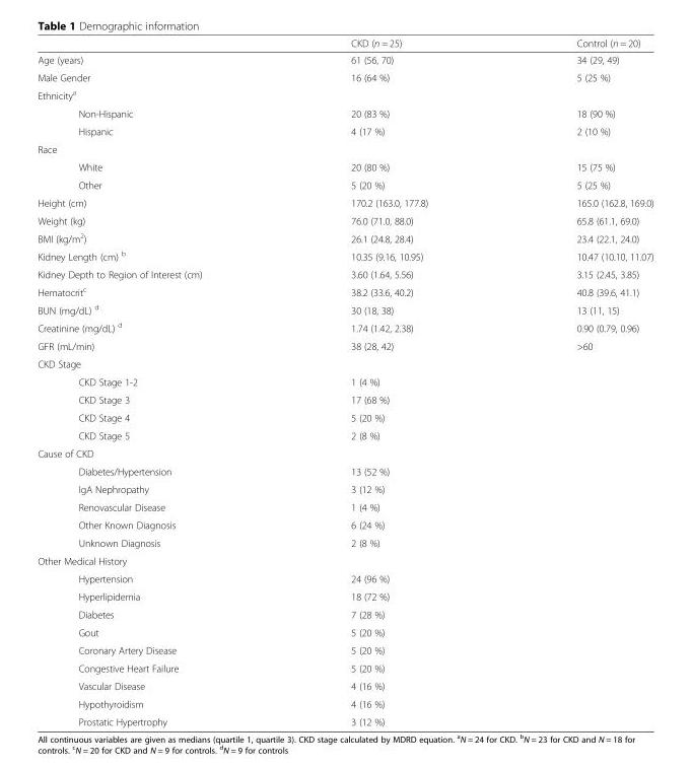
<table><thead><tr><td></td><td>CKD (n = 25)</td><td>Control (n = 20)</td></tr></thead><tbody><tr><td>Age (years)</td><td>61 (56, 70)</td><td>34 (29, 49)</td></tr><tr><td>Male Gender</td><td>16 (64 %)</td><td>5 (25 %)</td></tr><tr><td colspan="3">Ethnicity<sup>a</sup></td></tr><tr><td>Non-Hispanic</td><td>20 (83 %)</td><td>18 (90 %)</td></tr><tr><td>Hispanic</td><td>4 (17 %)</td><td>2 (10 %)</td></tr><tr><td colspan="3">Race</td></tr><tr><td>White</td><td>20 (80 %)</td><td>15 (75 %)</td></tr><tr><td>Other</td><td>5 (20 %)</td><td>5 (25 %)</td></tr><tr><td>Height (cm)</td><td>170.2 (163.0, 177.8)</td><td>165.0 (162.8, 169.0)</td></tr><tr><td>Weight (kg)</td><td>76.0 (71.0, 88.0)</td><td>65.8 (61.1, 69.0)</td></tr><tr><td>BMI (kg/m<sup>2</sup>)</td><td>26.1 (24.8, 28.4)</td><td>23.4 (22.1, 24.0)</td></tr><tr><td>Kidney Length (cm) <sup>b</sup></td><td>10.35 (9.16, 10.95)</td><td>10.47 (10.10, 11.07)</td></tr><tr><td>Kidney Depth to Region of Interest (cm)</td><td>3.60 (1.64, 5.56)</td><td>3.15 (2.45, 3.85)</td></tr><tr><td>Hematocrit<sup>c</sup></td><td>38.2 (33.6, 40.2)</td><td>40.8 (39.6, 41.1)</td></tr><tr><td>BUN (mg/dL) <sup>d</sup></td><td>30 (18, 38)</td><td>13 (11, 15)</td></tr><tr><td>Creatinine (mg/dL) <sup>d</sup></td><td>1.74 (1.42, 2.38)</td><td>0.90 (0.79, 0.96)</td></tr><tr><td>GFR (mL/min)</td><td>38 (28, 42)</td><td>&gt;60</td></tr><tr><td colspan="3">CKD Stage</td></tr><tr><td>CKD Stage 1-2</td><td>1 (4 %)</td><td></td></tr><tr><td>CKD Stage 3</td><td>17 (68 %)</td><td></td></tr><tr><td>CKD Stage 4</td><td>5 (20 %)</td><td></td></tr><tr><td>CKD Stage 5</td><td>2 (8 %)</td><td></td></tr><tr><td colspan="3">Cause of CKD</td></tr><tr><td>Diabetes/Hypertension</td><td>13 (52 %)</td><td></td></tr><tr><td>IgA Nephropathy</td><td>3 (12 %)</td><td></td></tr><tr><td>Renovascular Disease</td><td>1 (4 %)</td><td></td></tr><tr><td>Other Known Diagnosis</td><td>6 (24 %)</td><td></td></tr><tr><td>Unknown Diagnosis</td><td>2 (8 %)</td><td></td></tr><tr><td colspan="3">Other Medical History</td></tr><tr><td>Hypertension</td><td>24 (96 %)</td><td></td></tr><tr><td>Hyperlipidemia</td><td>18 (72 %)</td><td></td></tr><tr><td>Diabetes</td><td>7 (28 %)</td><td></td></tr><tr><td>Gout</td><td>5 (20 %)</td><td></td></tr><tr><td>Coronary Artery Disease</td><td>5 (20 %)</td><td></td></tr><tr><td>Congestive Heart Failure</td><td>5 (20 %)</td><td></td></tr><tr><td>Vascular Disease</td><td>4 (16 %)</td><td></td></tr><tr><td>Hypothyroidism</td><td>4 (16 %)</td><td></td></tr><tr><td>Prostatic Hypertrophy</td><td>3 (12 %)</td><td></td></tr></tbody></table>